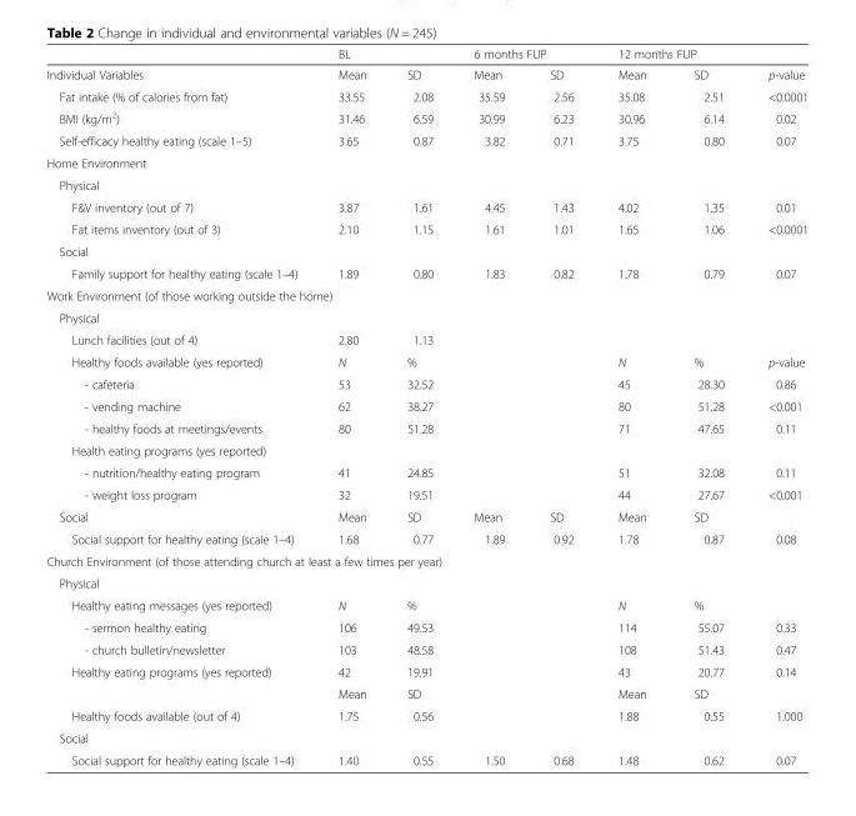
<table><thead><tr><td rowspan="2">Individual Variables</td><td colspan="2">BL</td><td colspan="2">6 months FUP</td><td colspan="2">12 months FUP</td><td rowspan="2">p-value</td></tr><tr><td>Mean</td><td>SD</td><td>Mean</td><td>SD</td><td>Mean</td><td>SD</td></tr></thead><tbody><tr><td>Fat intake (% of calories from fat)</td><td>33.55</td><td>2.08</td><td>35.59</td><td>2.56</td><td>35.08</td><td>2.51</td><td>&lt;0.0001</td></tr><tr><td>BMI (kg/m<sup>2</sup>)</td><td>31.46</td><td>6.59</td><td>30.99</td><td>6.23</td><td>30.96</td><td>6.14</td><td>0.02</td></tr><tr><td>Self-efficacy healthy eating (scale 1–5)</td><td>3.65</td><td>0.87</td><td>3.82</td><td>0.71</td><td>3.75</td><td>0.80</td><td>0.07</td></tr><tr><td colspan="8">Home Environment</td></tr><tr><td colspan="8">Physical</td></tr><tr><td>F&amp;V inventory (out of 7)</td><td>3.87</td><td>1.61</td><td>4.45</td><td>1.43</td><td>4.02</td><td>1.35</td><td>0.01</td></tr><tr><td>Fat items inventory (out of 3)</td><td>2.10</td><td>1.15</td><td>1.61</td><td>1.01</td><td>1.65</td><td>1.06</td><td>&lt;0.0001</td></tr><tr><td colspan="8">Social</td></tr><tr><td>Family support for healthy eating (scale 1–4)</td><td>1.89</td><td>0.80</td><td>1.83</td><td>0.82</td><td>1.78</td><td>0.79</td><td>0.07</td></tr><tr><td colspan="8">Work Environment (of those working outside the home)</td></tr><tr><td colspan="8">Physical</td></tr><tr><td>Lunch facilities (out of 4)</td><td>2.80</td><td>1.13</td><td></td><td></td><td></td><td></td><td></td></tr><tr><td>Healthy foods available (yes reported)</td><td>N</td><td>%</td><td></td><td></td><td>N</td><td>%</td><td>p-value</td></tr><tr><td>- cafeteria</td><td>53</td><td>32.52</td><td></td><td></td><td>45</td><td>28.30</td><td>0.86</td></tr><tr><td>- vending machine</td><td>62</td><td>38.27</td><td></td><td></td><td>80</td><td>51.28</td><td>&lt;0.001</td></tr><tr><td>- healthy foods at meetings/events</td><td>80</td><td>51.28</td><td></td><td></td><td>71</td><td>47.65</td><td>0.11</td></tr><tr><td colspan="8">Health eating programs (yes reported)</td></tr><tr><td>- nutrition/healthy eating program</td><td>41</td><td>24.85</td><td></td><td></td><td>51</td><td>32.08</td><td>0.11</td></tr><tr><td>- weight loss program</td><td>32</td><td>19.51</td><td></td><td></td><td>44</td><td>27.67</td><td>&lt;0.001</td></tr><tr><td>Social</td><td>Mean</td><td>SD</td><td>Mean</td><td>SD</td><td>Mean</td><td>SD</td><td></td></tr><tr><td>Social support for healthy eating (scale 1–4)</td><td>1.68</td><td>0.77</td><td>1.89</td><td>0.92</td><td>1.78</td><td>0.87</td><td>0.08</td></tr><tr><td colspan="8">Church Environment (of those attending church at least a few times per year)</td></tr><tr><td colspan="8">Physical</td></tr><tr><td>Healthy eating messages (yes reported)</td><td>N</td><td>%</td><td></td><td></td><td>N</td><td>%</td><td></td></tr><tr><td>- sermon healthy eating</td><td>106</td><td>49.53</td><td></td><td></td><td>114</td><td>55.07</td><td>0.33</td></tr><tr><td>- church bulletin/newsletter</td><td>103</td><td>48.58</td><td></td><td></td><td>108</td><td>51.43</td><td>0.47</td></tr><tr><td rowspan="2">Healthy eating programs (yes reported)</td><td>42</td><td>19.91</td><td></td><td></td><td>43</td><td>20.77</td><td>0.14</td></tr><tr><td>Mean</td><td>SD</td><td></td><td></td><td>Mean</td><td>SD</td><td></td></tr><tr><td>Healthy foods available (out of 4)</td><td>1.75</td><td>0.56</td><td></td><td></td><td>1.88</td><td>0.55</td><td>1.000</td></tr><tr><td colspan="8">Social</td></tr><tr><td>Social support for healthy eating (scale 1–4)</td><td>1.40</td><td>0.55</td><td>1.50</td><td>0.68</td><td>1.48</td><td>0.62</td><td>0.07</td></tr></tbody></table>